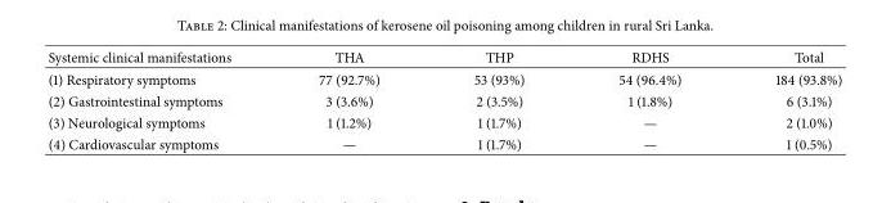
<table><thead><tr><td>Systemic clinical manifestations</td><td>THA</td><td>THP</td><td>RDHS</td><td>Total</td></tr></thead><tbody><tr><td>(1) Respiratory symptoms</td><td>77 (92.7%)</td><td>53 (93%)</td><td>54 (96.4%)</td><td>184 (93.8%)</td></tr><tr><td>(2) Gastrointestinal symptoms</td><td>3 (3.6%)</td><td>2 (3.5%)</td><td>1 (1.8%)</td><td>6 (3.1%)</td></tr><tr><td>(3) Neurological symptoms</td><td>1 (1.2%)</td><td>1 (1.7%)</td><td>—</td><td>2 (1.0%)</td></tr><tr><td>(4) Cardiovascular symptoms</td><td>—</td><td>1 (1.7%)</td><td>—</td><td>1 (0.5%)</td></tr></tbody></table>